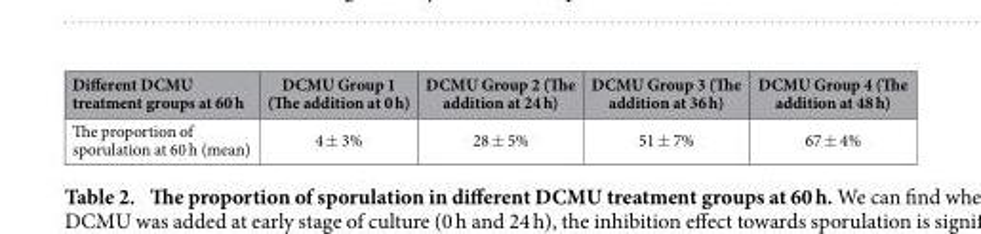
<table><thead><tr><td>Different DCMU treatment groups at 60 h</td><td>DCMU Group 1 (The addition at 0 h)</td><td>DCMU Group 2 (The addition at 24 h)</td><td>DCMU Group 3 (The addition at 36 h)</td><td>DCMU Group 4 (The addition at 48 h)</td></tr></thead><tbody><tr><td>The proportion of sporulation at 60 h (mean)</td><td>4 ± 3%</td><td>28 ± 5%</td><td>51 ± 7%</td><td>67 ± 4%</td></tr></tbody></table>